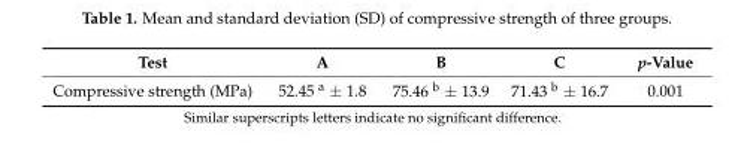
<table><thead><tr><td>Test</td><td>A</td><td>B</td><td>C</td><td>p-Value</td></tr></thead><tbody><tr><td>Compressive strength (MPa)</td><td>52.45 <sup>a</sup> ± 1.8</td><td>75.46 <sup>b</sup> ± 13.9</td><td>71.43 <sup>b</sup> ± 16.7</td><td>0.001</td></tr></tbody></table>